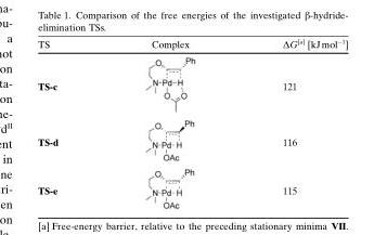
<table><thead><tr><td>TS</td><td>Complex</td><td>ΔG<sup>[a]</sup> [kJmol<sup>−1</sup>]</td></tr></thead><tbody><tr><td>TS-c</td><td></td><td>121</td></tr><tr><td>TS-d</td><td></td><td>116</td></tr><tr><td>TS-e</td><td></td><td>115</td></tr></tbody></table>